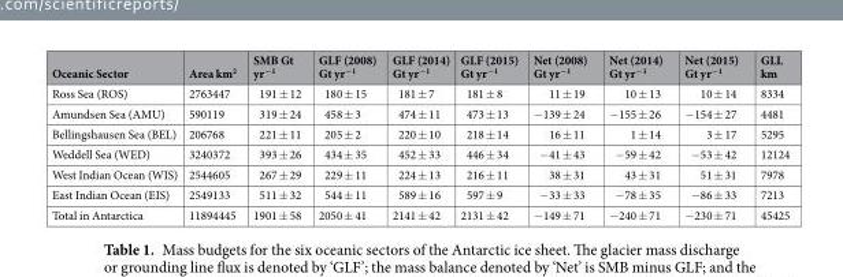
<table><thead><tr><td>Oceanic Sector</td><td>Area km<sup>2</sup></td><td>SMB Gt yr<sup>−1</sup></td><td>GLF (2008) Gt yr<sup>−1</sup></td><td>GLF (2014) Gt yr<sup>−1</sup></td><td>GLF (2015) Gt yr<sup>−1</sup></td><td>Net (2008) Gt yr<sup>−1</sup></td><td>Net (2014) Gt yr<sup>−1</sup></td><td>Net (2015) Gt yr<sup>−1</sup></td><td>GLL km</td></tr></thead><tbody><tr><td>Ross Sea (ROS)</td><td>2763447</td><td>191 ± 12</td><td>180 ± 15</td><td>181 ± 7</td><td>181 ± 8</td><td>11 ± 19</td><td>10 ± 13</td><td>10 ± 14</td><td>8334</td></tr><tr><td>Amundsen Sea (AMU)</td><td>590119</td><td>319 ± 24</td><td>458 ± 3</td><td>474 ± 11</td><td>473 ± 13</td><td>−139 ± 24</td><td>−155 ± 26</td><td>−154 ± 27</td><td>4481</td></tr><tr><td>Bellingshausen Sea (BEL)</td><td>206768</td><td>221 ± 11</td><td>205 ± 2</td><td>220 ± 10</td><td>218 ± 14</td><td>16 ± 11</td><td>1 ± 14</td><td>3 ± 17</td><td>5295</td></tr><tr><td>Weddell Sea (WED)</td><td>3240372</td><td>393 ± 26</td><td>434 ± 35</td><td>452 ± 33</td><td>446 ± 34</td><td>−41 ± 43</td><td>−59 ± 42</td><td>−53 ± 42</td><td>12124</td></tr><tr><td>West Indian Ocean (WIS)</td><td>2544605</td><td>267 ± 29</td><td>229 ± 11</td><td>224 ± 13</td><td>216 ± 11</td><td>38 ± 31</td><td>43 ± 31</td><td>51 ± 31</td><td>7978</td></tr><tr><td>East Indian Ocean (EIS)</td><td>2549133</td><td>511 ± 32</td><td>544 ± 11</td><td>589 ± 16</td><td>597 ± 9</td><td>−33 ± 33</td><td>−78 ± 35</td><td>−86 ± 33</td><td>7213</td></tr><tr><td>Total in Antarctica</td><td>11894445</td><td>1901 ± 58</td><td>2050 ± 41</td><td>2141 ± 42</td><td>2131 ± 42</td><td>−149 ± 71</td><td>−240 ± 71</td><td>−230 ± 71</td><td>45425</td></tr></tbody></table>